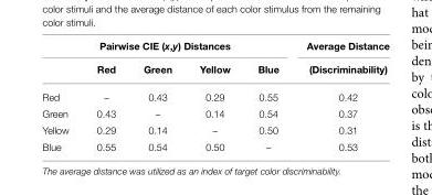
<table><thead><tr><td colspan="5">Pairwise CIE (x,y) Distances</td><td rowspan="2">Average Distance (Discriminability)</td></tr><tr><td></td><td>Red</td><td>Green</td><td>Yellow</td><td>Blue</td></tr></thead><tbody><tr><td>Red</td><td>–</td><td>0.43</td><td>0.29</td><td>0.55</td><td>0.42</td></tr><tr><td>Green</td><td>0.43</td><td>–</td><td>0.14</td><td>0.54</td><td>0.37</td></tr><tr><td>Yellow</td><td>0.29</td><td>0.14</td><td>–</td><td>0.50</td><td>0.31</td></tr><tr><td>Blue</td><td>0.55</td><td>0.54</td><td>0.50</td><td>–</td><td>0.53</td></tr></tbody></table>